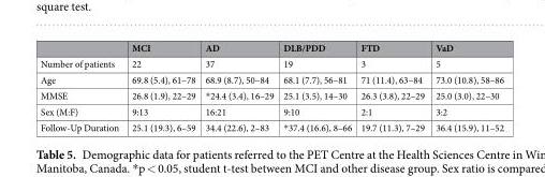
<table><thead><tr><td></td><td>MCI</td><td>AD</td><td>DLB/PDD</td><td>FTD</td><td>VaD</td></tr></thead><tbody><tr><td>Number of patients</td><td>22</td><td>37</td><td>19</td><td>3</td><td>5</td></tr><tr><td>Age</td><td>69.8 (5.4), 61–78</td><td>68.9 (8.7), 50–84</td><td>68.1 (7.7), 56–81</td><td>71 (11.4), 63–84</td><td>73.0 (10.8), 58–86</td></tr><tr><td>MMSE</td><td>26.8 (1.9), 22–29</td><td>*24.4 (3.4), 16–29</td><td>25.1 (3.5), 14–30</td><td>26.3 (3.8), 22–29</td><td>25.0 (3.0), 22–30</td></tr><tr><td>Sex (M:F)</td><td>9:13</td><td>16:21</td><td>9:10</td><td>2:1</td><td>3:2</td></tr><tr><td>Follow-Up Duration</td><td>25.1 (19.3), 6–59</td><td>34.4 (22.6), 2–83</td><td>*37.4 (16.6), 8–66</td><td>19.7 (11.3), 7–29</td><td>36.4 (15.9), 11–52</td></tr></tbody></table>